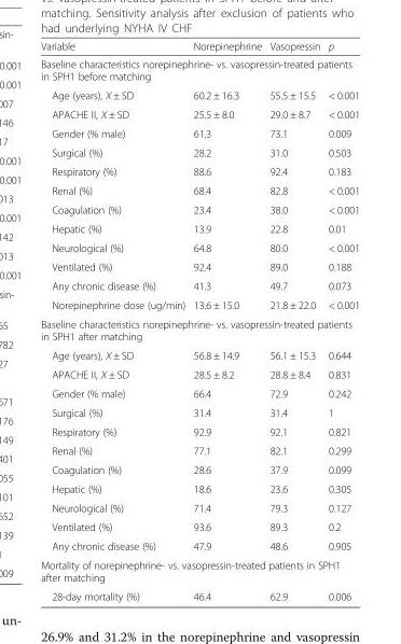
<table><thead><tr><td>Variable</td><td>Norepinephrine</td><td>Vasopressin</td><td>p</td></tr></thead><tbody><tr><td colspan="4">Baseline characteristics norepinephrine- vs. vasopressin-treated patients in SPH1 before matching</td></tr><tr><td>Age (years), X ± SD</td><td>60.2 ± 16.3</td><td>55.5 ± 15.5</td><td>&lt; 0.001</td></tr><tr><td>APACHE II, X ± SD</td><td>25.5 ± 8.0</td><td>29.0 ± 8.7</td><td>&lt; 0.001</td></tr><tr><td>Gender (% male)</td><td>61.3</td><td>73.1</td><td>0.009</td></tr><tr><td>Surgical (%)</td><td>28.2</td><td>31.0</td><td>0.503</td></tr><tr><td>Respiratory (%)</td><td>88.6</td><td>92.4</td><td>0.183</td></tr><tr><td>Renal (%)</td><td>68.4</td><td>82.8</td><td>&lt; 0.001</td></tr><tr><td>Coagulation (%)</td><td>23.4</td><td>38.0</td><td>&lt; 0.001</td></tr><tr><td>Hepatic (%)</td><td>13.9</td><td>22.8</td><td>0.01</td></tr><tr><td>Neurological (%)</td><td>64.8</td><td>80.0</td><td>&lt; 0.001</td></tr><tr><td>Ventilated (%)</td><td>92.4</td><td>89.0</td><td>0.188</td></tr><tr><td>Any chronic disease (%)</td><td>41.3</td><td>49.7</td><td>0.073</td></tr><tr><td>Norepinephrine dose (ug/min)</td><td>13.6 ± 15.0</td><td>21.8 ± 22.0</td><td>&lt; 0.001</td></tr><tr><td colspan="4">Baseline characteristics norepinephrine- vs. vasopressin-treated patients in SPH1 after matching</td></tr><tr><td>Age (years), X ± SD</td><td>56.8 ± 14.9</td><td>56.1 ± 15.3</td><td>0.644</td></tr><tr><td>APACHE II, X ± SD</td><td>28.5 ± 8.2</td><td>28.8 ± 8.4</td><td>0.831</td></tr><tr><td>Gender (% male)</td><td>66.4</td><td>72.9</td><td>0.242</td></tr><tr><td>Surgical (%)</td><td>31.4</td><td>31.4</td><td>1</td></tr><tr><td>Respiratory (%)</td><td>92.9</td><td>92.1</td><td>0.821</td></tr><tr><td>Renal (%)</td><td>77.1</td><td>82.1</td><td>0.299</td></tr><tr><td>Coagulation (%)</td><td>28.6</td><td>37.9</td><td>0.099</td></tr><tr><td>Hepatic (%)</td><td>18.6</td><td>23.6</td><td>0.305</td></tr><tr><td>Neurological (%)</td><td>71.4</td><td>79.3</td><td>0.127</td></tr><tr><td>Ventilated (%)</td><td>93.6</td><td>89.3</td><td>0.2</td></tr><tr><td>Any chronic disease (%)</td><td>47.9</td><td>48.6</td><td>0.905</td></tr><tr><td colspan="4">Mortality of norepinephrine- vs. vasopressin-treated patients in SPH1 after matching</td></tr><tr><td>28-day mortality (%)</td><td>46.4</td><td>62.9</td><td>0.006</td></tr></tbody></table>